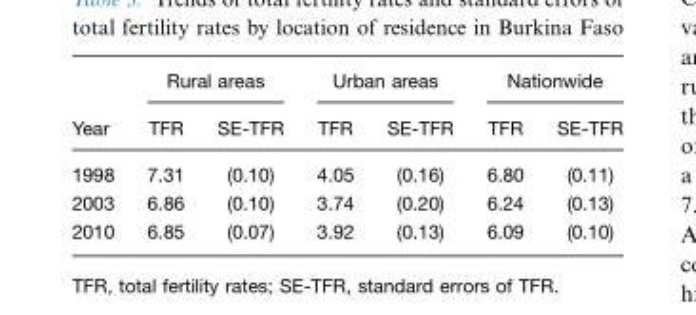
<table><thead><tr><td rowspan="2">Year</td><td colspan="2">Rural areas</td><td colspan="2">Urban areas</td><td colspan="2">Nationwide</td></tr><tr><td>TFR</td><td>SE-TFR</td><td>TFR</td><td>SE-TFR</td><td>TFR</td><td>SE-TFR</td></tr></thead><tbody><tr><td>1998</td><td>7.31</td><td>(0.10)</td><td>4.05</td><td>(0.16)</td><td>6.80</td><td>(0.11)</td></tr><tr><td>2003</td><td>6.86</td><td>(0.10)</td><td>3.74</td><td>(0.20)</td><td>6.24</td><td>(0.13)</td></tr><tr><td>2010</td><td>6.85</td><td>(0.07)</td><td>3.92</td><td>(0.13)</td><td>6.09</td><td>(0.10)</td></tr></tbody></table>